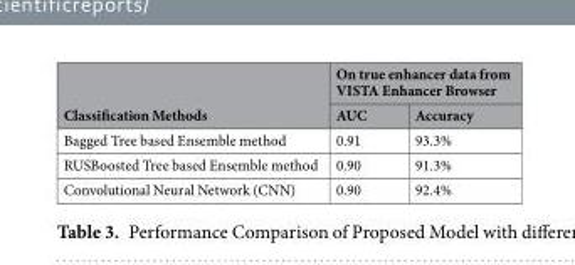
<table><thead><tr><td rowspan="2">Classification Methods</td><td colspan="2">On true enhancer data from VISTA Enhancer Browser</td></tr><tr><td>AUC</td><td>Accuracy</td></tr></thead><tbody><tr><td>Bagged Tree based Ensemble method</td><td>0.91</td><td>93.3%</td></tr><tr><td>RUSBoosted Tree based Ensemble method</td><td>0.90</td><td>91.3%</td></tr><tr><td>Convolutional Neural Network (CNN)</td><td>0.90</td><td>92.4%</td></tr></tbody></table>